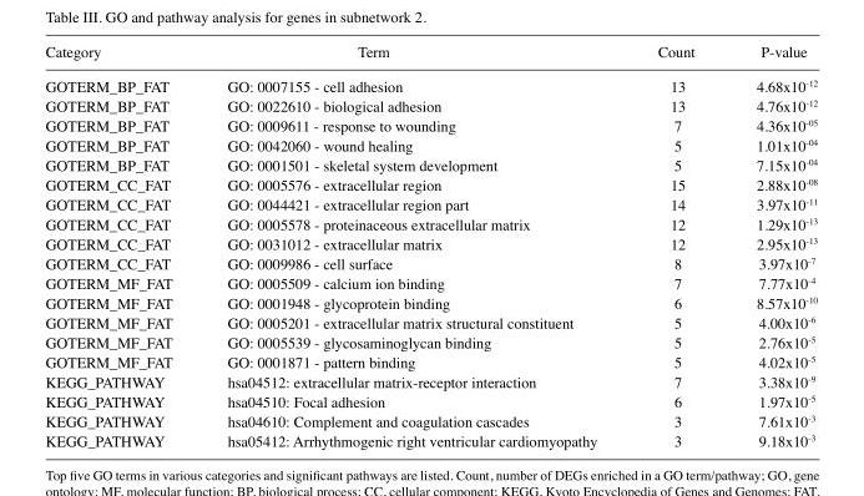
<table><thead><tr><td>Category</td><td>Term</td><td>Count</td><td>P-value</td></tr></thead><tbody><tr><td>GOTERM_BP_FAT</td><td>GO: 0007155 ‑ cell adhesion</td><td>13</td><td>4.68x10-12</td></tr><tr><td>GOTERM_BP_FAT</td><td>GO: 0022610 - biological adhesion</td><td>13</td><td>4.76x10-12</td></tr><tr><td>GOTERM_BP_FAT</td><td>GO: 0009611 - response to wounding</td><td>7</td><td>4.36x10-05</td></tr><tr><td>GOTERM_BP_FAT</td><td>GO: 0042060 - wound healing</td><td>5</td><td>1.01x10-04</td></tr><tr><td>GOTERM_BP_FAT</td><td>GO: 0001501 - skeletal system development</td><td>5</td><td>7.15x10-04</td></tr><tr><td>GOTERM_CC_FAT</td><td>GO: 0005576 - extracellular region</td><td>15</td><td>2.88x10-08</td></tr><tr><td>GOTERM_CC_FAT</td><td>GO: 0044421 - extracellular region part</td><td>14</td><td>3.97x10-11</td></tr><tr><td>GOTERM_CC_FAT</td><td>GO: 0005578 - proteinaceous extracellular matrix</td><td>12</td><td>1.29x10-13</td></tr><tr><td>GOTERM_CC_FAT</td><td>GO: 0031012 - extracellular matrix</td><td>12</td><td>2.95x10-13</td></tr><tr><td>GOTERM_CC_FAT</td><td>GO: 0009986 - cell surface</td><td>8</td><td>3.97x10-7</td></tr><tr><td>GOTERM_MF_FAT</td><td>GO: 0005509 - calcium ion binding</td><td>7</td><td>7.77x10-4</td></tr><tr><td>GOTERM_MF_FAT</td><td>GO: 0001948 - glycoprotein binding</td><td>6</td><td>8.57x10-10</td></tr><tr><td>GOTERM_MF_FAT</td><td>GO: 0005201 - extracellular matrix structural constituent</td><td>5</td><td>4.00x10-6</td></tr><tr><td>GOTERM_MF_FAT</td><td>GO: 0005539 - glycosaminoglycan binding</td><td>5</td><td>2.76x10-5</td></tr><tr><td>GOTERM_MF_FAT</td><td>GO: 0001871 - pattern binding</td><td>5</td><td>4.02x10-5</td></tr><tr><td>KEGG_PATHWAY</td><td>hsa04512: extracellular matrix-receptor interaction</td><td>7</td><td>3.38x10-9</td></tr><tr><td>KEGG_PATHWAY</td><td>hsa04510: Focal adhesion</td><td>6</td><td>1.97x10-5</td></tr><tr><td>KEGG_PATHWAY</td><td>hsa04610: Complement and coagulation cascades</td><td>3</td><td>7.61x10-3</td></tr><tr><td>KEGG_PATHWAY</td><td>hsa05412: Arrhythmogenic right ventricular cardiomyopathy</td><td>3</td><td>9.18x10-3</td></tr></tbody></table>